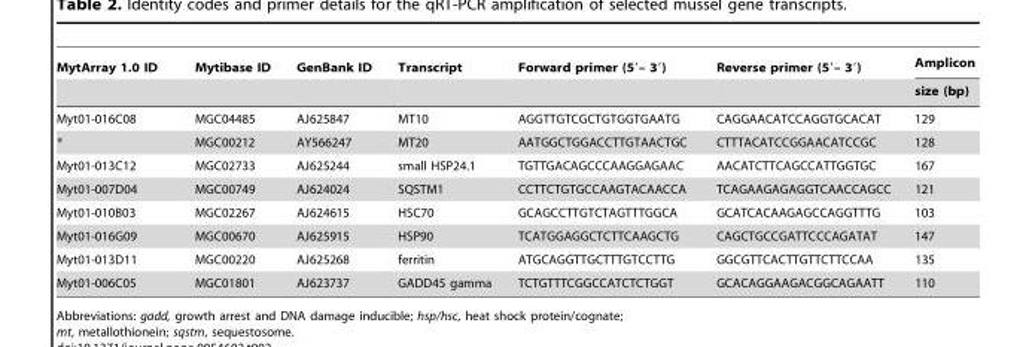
<table><thead><tr><td rowspan="2">MytArray 1.0 ID</td><td rowspan="2">Mytibase ID</td><td rowspan="2">GenBank ID</td><td rowspan="2">Transcript</td><td rowspan="2">Forward primer (5′– 3′)</td><td rowspan="2">Reverse primer (5′– 3′)</td><td rowspan="2">Amplicon size (bp)</td></tr><tr></tr></thead><tbody><tr><td>Myt01-016C08</td><td>MGC04485</td><td>AJ625847</td><td>MT10</td><td>AGGTTGTCGCTGTGGTGAATG</td><td>CAGGAACATCCAGGTGCACAT</td><td>129</td></tr><tr><td>*</td><td>MGC00212</td><td>AY566247</td><td>MT20</td><td>AATGGCTGGACCTTGTAACTGC</td><td>CTTTACATCCGGAACATCCGC</td><td>128</td></tr><tr><td>Myt01-013C12</td><td>MGC02733</td><td>AJ625244</td><td>small HSP24.1</td><td>TGTTGACAGCCCAAGGAGAAC</td><td>AACATCTTCAGCCATTGGTGC</td><td>167</td></tr><tr><td>Myt01-007D04</td><td>MGC00749</td><td>AJ624024</td><td>SQSTM1</td><td>CCTTCTGTGCCAAGTACAACCA</td><td>TCAGAAGAGAGGTCAACCAGCC</td><td>121</td></tr><tr><td>Myt01-010B03</td><td>MGC02267</td><td>AJ624615</td><td>HSC70</td><td>GCAGCCTTGTCTAGTTTGGCA</td><td>GCATCACAAGAGCCAGGTTTG</td><td>103</td></tr><tr><td>Myt01-016G09</td><td>MGC00670</td><td>AJ625915</td><td>HSP90</td><td>TCATGGAGGCTCTTCAAGCTG</td><td>CAGCTGCCGATTCCCAGATAT</td><td>147</td></tr><tr><td>Myt01-013D11</td><td>MGC00220</td><td>AJ625268</td><td>ferritin</td><td>ATGCAGGTTGCTTTGTCCTTG</td><td>GGCGTTCACTTGTTCTTCCAA</td><td>135</td></tr><tr><td>Myt01-006C05</td><td>MGC01801</td><td>AJ623737</td><td>GADD45 gamma</td><td>TCTGTTTCGGCCATCTCTGGT</td><td>GCACAGGAAGACGGCAGAATT</td><td>110</td></tr></tbody></table>